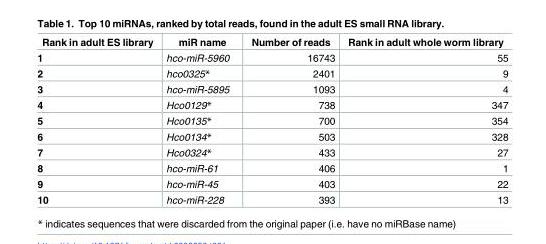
<table><thead><tr><td>Rank in adult ES library</td><td>miR name</td><td>Number of reads</td><td>Rank in adult whole worm library</td></tr></thead><tbody><tr><td>1</td><td>hco-miR-5960</td><td>16743</td><td>55</td></tr><tr><td>2</td><td>hco0325*</td><td>2401</td><td>9</td></tr><tr><td>3</td><td>hco-miR-5895</td><td>1093</td><td>4</td></tr><tr><td>4</td><td>Hco0129*</td><td>738</td><td>347</td></tr><tr><td>5</td><td>Hco0135*</td><td>700</td><td>354</td></tr><tr><td>6</td><td>Hco0134*</td><td>503</td><td>328</td></tr><tr><td>7</td><td>Hco0324*</td><td>433</td><td>27</td></tr><tr><td>8</td><td>hco-miR-61</td><td>406</td><td>1</td></tr><tr><td>9</td><td>hco-miR-45</td><td>403</td><td>22</td></tr><tr><td>10</td><td>hco-miR-228</td><td>393</td><td>13</td></tr></tbody></table>